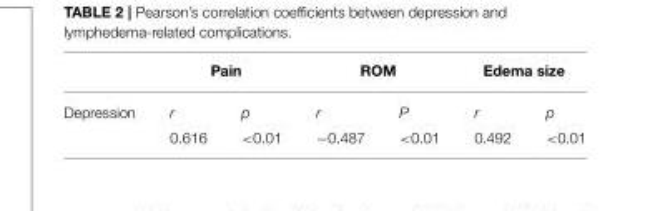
<table><thead><tr><td rowspan="2">Depression</td><td colspan="2">Pain</td><td colspan="2">ROM</td><td colspan="2">Edema size</td></tr><tr><td>r</td><td>p</td><td>r</td><td>P</td><td>r</td><td>p</td></tr></thead><tbody><tr><td></td><td>0.616</td><td>&lt;0.01</td><td>−0.487</td><td>&lt;0.01</td><td>0.492</td><td>&lt;0.01</td></tr></tbody></table>